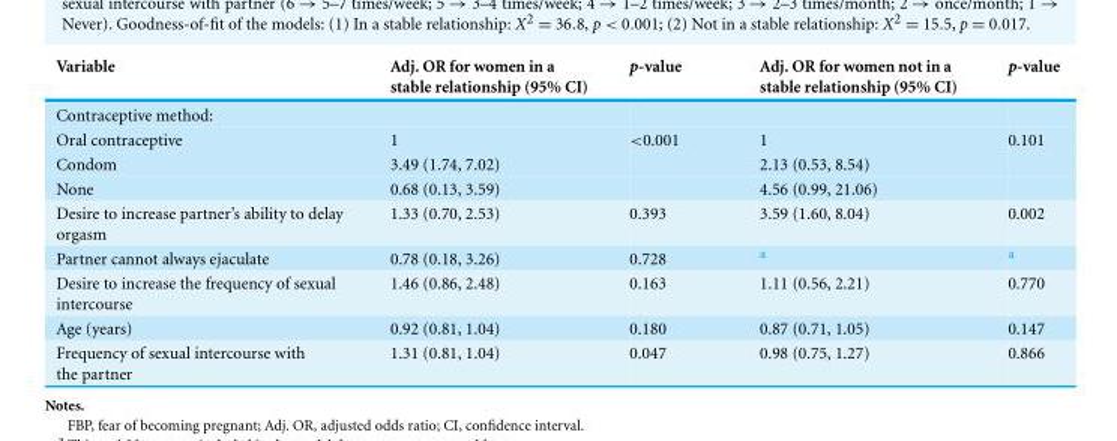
<table><thead><tr><td>Variable</td><td>Adj. OR for women in a stable relationship (95% CI)</td><td>p-value</td><td>Adj. OR for women not in a stable relationship (95% CI)</td><td>p-value</td></tr></thead><tbody><tr><td colspan="5">Contraceptive method:</td></tr><tr><td>Oral contraceptive</td><td>1</td><td>&lt;0.001</td><td>1</td><td>0.101</td></tr><tr><td>Condom</td><td>3.49 (1.74, 7.02)</td><td></td><td>2.13 (0.53, 8.54)</td><td></td></tr><tr><td>None</td><td>0.68 (0.13, 3.59)</td><td></td><td>4.56 (0.99, 21.06)</td><td></td></tr><tr><td>Desire to increase partner’s ability to delay orgasm</td><td>1.33 (0.70, 2.53)</td><td>0.393</td><td>3.59 (1.60, 8.04)</td><td>0.002</td></tr><tr><td>Partner cannot always ejaculate</td><td>0.78 (0.18, 3.26)</td><td>0.728</td><td><sup>a</sup></td><td><sup>a</sup></td></tr><tr><td>Desire to increase the frequency of sexual intercourse</td><td>1.46 (0.86, 2.48)</td><td>0.163</td><td>1.11 (0.56, 2.21)</td><td>0.770</td></tr><tr><td>Age (years)</td><td>0.92 (0.81, 1.04)</td><td>0.180</td><td>0.87 (0.71, 1.05)</td><td>0.147</td></tr><tr><td>Frequency of sexual intercourse with the partner</td><td>1.31 (0.81, 1.04)</td><td>0.047</td><td>0.98 (0.75, 1.27)</td><td>0.866</td></tr></tbody></table>